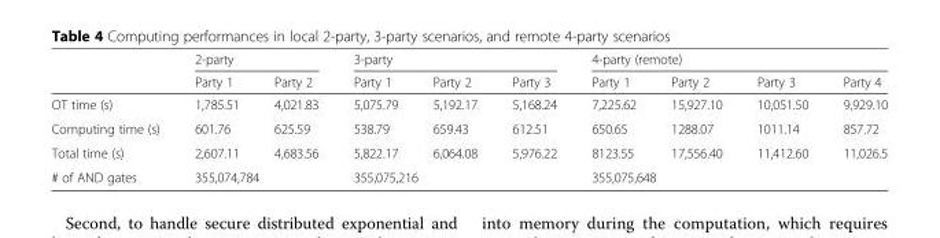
<table><thead><tr><td rowspan="2"></td><td colspan="2">2-party</td><td colspan="3">3-party</td><td colspan="4">4-party (remote)</td></tr><tr><td>Party 1</td><td>Party 2</td><td>Party 1</td><td>Party 2</td><td>Party 3</td><td>Party 1</td><td>Party 2</td><td>Party 3</td><td>Party 4</td></tr></thead><tbody><tr><td>OT time (s)</td><td>1,785.51</td><td>4,021.83</td><td>5,075.79</td><td>5,192.17</td><td>5,168.24</td><td>7,225.62</td><td>15,927.10</td><td>10,051.50</td><td>9,929.10</td></tr><tr><td>Computing time (s)</td><td>601.76</td><td>625.59</td><td>538.79</td><td>659.43</td><td>612.51</td><td>650.65</td><td>1288.07</td><td>1011.14</td><td>857.72</td></tr><tr><td>Total time (s)</td><td>2,607.11</td><td>4,683.56</td><td>5,822.17</td><td>6,064.08</td><td>5,976.22</td><td>8123.55</td><td>17,556.40</td><td>11,412.60</td><td>11,026.5</td></tr><tr><td># of AND gates</td><td colspan="2">355,074,784</td><td colspan="3">355,075,216</td><td colspan="4">355,075,648</td></tr></tbody></table>